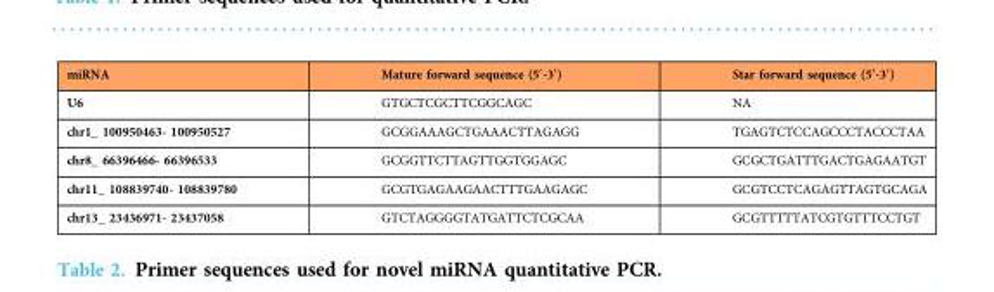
<table><thead><tr><td>miRNA</td><td>Mature forward sequence (5′-3′)</td><td>Star forward sequence (5′-3′)</td></tr></thead><tbody><tr><td>U6</td><td>GTGCTCGCTTCGGCAGC</td><td>NA</td></tr><tr><td>chr1_ 100950463- 100950527</td><td>GCGGAAAGCTGAAACTTAGAGG</td><td>TGAGTCTCCAGCCCTACCCTAA</td></tr><tr><td>chr8_ 66396466- 66396533</td><td>GCGGTTCTTAGTTGGTGGAGC</td><td>GCGCTGATTTGACTGAGAATGT</td></tr><tr><td>chr11_ 108839740- 108839780</td><td>GCGTGAGAAGAACTTTGAAGAGC</td><td>GCGTCCTCAGAGTTAGTGCAGA</td></tr><tr><td>chr13_ 23436971- 23437058</td><td>GTCTAGGGGTATGATTCTCGCAA</td><td>GCGTTTTTATCGTGTTTCCTGT</td></tr></tbody></table>